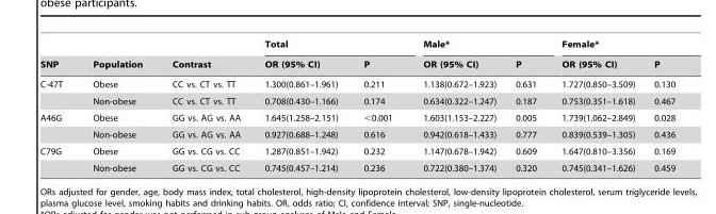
<table><thead><tr><td rowspan="2">SNP</td><td rowspan="2">Population</td><td rowspan="2">Contrast</td><td colspan="2">Total</td><td colspan="2">Male*</td><td colspan="2">Female*</td></tr><tr><td>OR (95% CI)</td><td>P</td><td>OR (95% CI)</td><td>P</td><td>OR (95% CI)</td><td>P</td></tr></thead><tbody><tr><td rowspan="2">C-47T</td><td>Obese</td><td>CC vs. CT vs. TT</td><td>1.300(0.861–1.961)</td><td>0.211</td><td>1.138(0.672–1.923)</td><td>0.631</td><td>1.727(0.850–3.509)</td><td>0.130</td></tr><tr><td>Non-obese</td><td>CC vs. CT vs. TT</td><td>0.708(0.430–1.166)</td><td>0.174</td><td>0.634(0.322–1.247)</td><td>0.187</td><td>0.753(0.351–1.618)</td><td>0.467</td></tr><tr><td rowspan="2">A46G</td><td>Obese</td><td>GG vs. AG vs. AA</td><td>1.645(1.258–2.151)</td><td>&lt;0.001</td><td>1.603(1.153–2.227)</td><td>0.005</td><td>1.739(1.062–2.849)</td><td>0.028</td></tr><tr><td>Non-obese</td><td>GG vs. AG vs. AA</td><td>0.927(0.688–1.248)</td><td>0.616</td><td>0.942(0.618–1.433)</td><td>0.777</td><td>0.839(0.539–1.305)</td><td>0.436</td></tr><tr><td rowspan="2">C79G</td><td>Obese</td><td>GG vs. CG vs. CC</td><td>1.287(0.851–1.942)</td><td>0.232</td><td>1.147(0.678–1.942)</td><td>0.609</td><td>1.647(0.810–3.356)</td><td>0.169</td></tr><tr><td>Non-obese</td><td>GG vs. CG vs. CC</td><td>0.745(0.457–1.214)</td><td>0.236</td><td>0.722(0.380–1.374)</td><td>0.320</td><td>0.745(0.341–1.626)</td><td>0.459</td></tr></tbody></table>